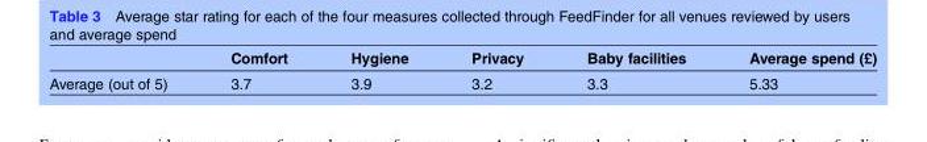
<table><thead><tr><td></td><td>Comfort</td><td>Hygiene</td><td>Privacy</td><td>Baby facilities</td><td>Average spend (£)</td></tr></thead><tbody><tr><td>Average (out of 5)</td><td>3.7</td><td>3.9</td><td>3.2</td><td>3.3</td><td>5.33</td></tr></tbody></table>